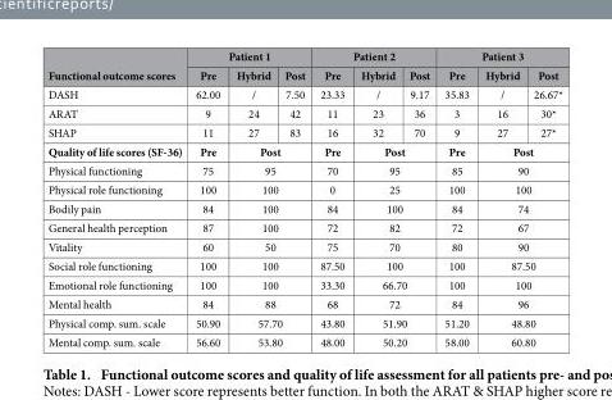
<table><thead><tr><td rowspan="2">Functional outcome scores</td><td colspan="3">Patient 1</td><td colspan="3">Patient 2</td><td colspan="3">Patient 3</td></tr><tr><td>Pre</td><td>Hybrid</td><td>Post</td><td>Pre</td><td>Hybrid</td><td>Post</td><td>Pre</td><td>Hybrid</td><td>Post</td></tr></thead><tbody><tr><td>DASH</td><td>62.00</td><td>/</td><td>7.50</td><td>23.33</td><td>/</td><td>9.17</td><td>35.83</td><td>/</td><td>26.67*</td></tr><tr><td>ARAT</td><td>9</td><td>24</td><td>42</td><td>11</td><td>23</td><td>36</td><td>3</td><td>16</td><td>30*</td></tr><tr><td>SHAP</td><td>11</td><td>27</td><td>83</td><td>16</td><td>32</td><td>70</td><td>9</td><td>27</td><td>27*</td></tr><tr><td>Quality of life scores (SF-36)</td><td>Pre</td><td colspan="2">Post</td><td>Pre</td><td colspan="2">Post</td><td>Pre</td><td colspan="2">Post</td></tr><tr><td>Physical functioning</td><td>75</td><td colspan="2">95</td><td>70</td><td colspan="2">95</td><td>85</td><td colspan="2">90</td></tr><tr><td>Physical role functioning</td><td>100</td><td colspan="2">100</td><td>0</td><td colspan="2">25</td><td>100</td><td colspan="2">100</td></tr><tr><td>Bodily pain</td><td>84</td><td colspan="2">100</td><td>84</td><td colspan="2">100</td><td>84</td><td colspan="2">74</td></tr><tr><td>General health perception</td><td>87</td><td colspan="2">100</td><td>72</td><td colspan="2">82</td><td>72</td><td colspan="2">67</td></tr><tr><td>Vitality</td><td>60</td><td colspan="2">50</td><td>75</td><td colspan="2">70</td><td>80</td><td colspan="2">90</td></tr><tr><td>Social role functioning</td><td>100</td><td colspan="2">100</td><td>87.50</td><td colspan="2">100</td><td>100</td><td colspan="2">87.50</td></tr><tr><td>Emotional role functioning</td><td>100</td><td colspan="2">100</td><td>33.30</td><td colspan="2">66.70</td><td>100</td><td colspan="2">100</td></tr><tr><td>Mental health</td><td>84</td><td colspan="2">88</td><td>68</td><td colspan="2">72</td><td>84</td><td colspan="2">96</td></tr><tr><td>Physical comp. sum. scale</td><td>50.90</td><td colspan="2">57.70</td><td>43.80</td><td colspan="2">51.90</td><td>51.20</td><td colspan="2">48.80</td></tr><tr><td>Mental comp. sum. scale</td><td>56.60</td><td colspan="2">53.80</td><td>48.00</td><td colspan="2">50.20</td><td>58.00</td><td colspan="2">60.80</td></tr></tbody></table>